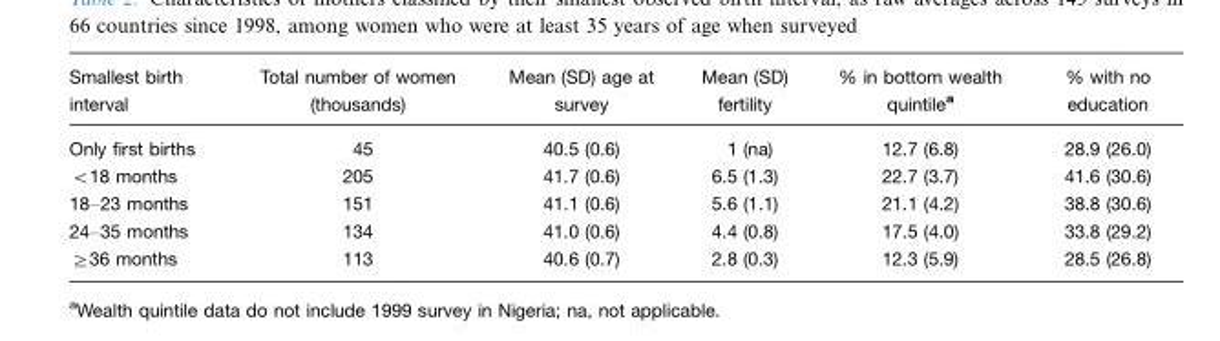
<table><thead><tr><td>Smallest birth interval</td><td>Total number of women (thousands)</td><td>Mean (SD) age at survey</td><td>Mean (SD) fertility</td><td>% in bottom wealth quintilea</td><td>% with no education</td></tr></thead><tbody><tr><td>Only first births</td><td>45</td><td>40.5 (0.6)</td><td>1 (na)</td><td>12.7 (6.8)</td><td>28.9 (26.0)</td></tr><tr><td>&lt;18 months</td><td>205</td><td>41.7 (0.6)</td><td>6.5 (1.3)</td><td>22.7 (3.7)</td><td>41.6 (30.6)</td></tr><tr><td>18–23 months</td><td>151</td><td>41.1 (0.6)</td><td>5.6 (1.1)</td><td>21.1 (4.2)</td><td>38.8 (30.6)</td></tr><tr><td>24–35 months</td><td>134</td><td>41.0 (0.6)</td><td>4.4 (0.8)</td><td>17.5 (4.0)</td><td>33.8 (29.2)</td></tr><tr><td>≥36 months</td><td>113</td><td>40.6 (0.7)</td><td>2.8 (0.3)</td><td>12.3 (5.9)</td><td>28.5 (26.8)</td></tr></tbody></table>